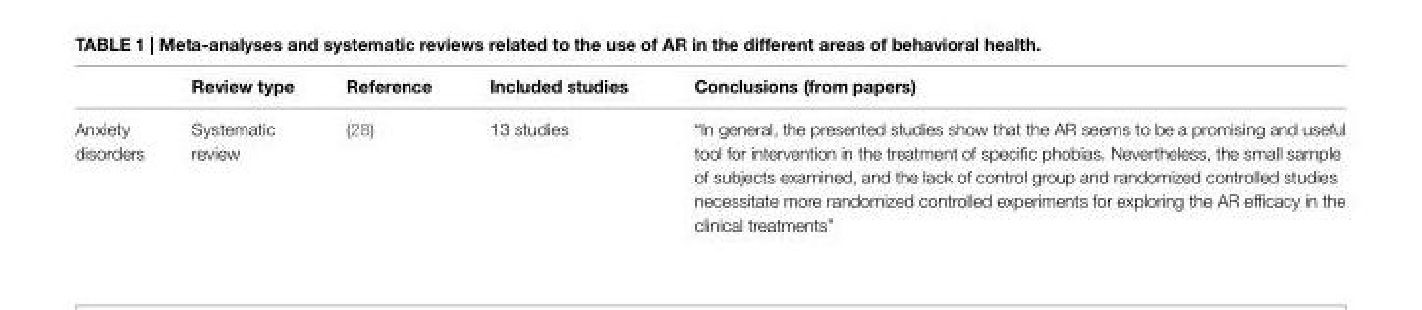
<table><thead><tr><td></td><td>Review type</td><td>Reference</td><td>included studies</td><td>Conclusions (from papers)</td></tr></thead><tbody><tr><td>Anxiety disorders</td><td>Systematic review</td><td>(28)</td><td>13 studies</td><td>“In general, the presented studies show that the AR seems to be a promising and useful tool for intervention in the treatment of specific phobias. Nevertheless, the small sample of subjects examined, and the lack of control group and randomized controlled studies necessitate more randomized controlled experiments for exploring the AR efficacy in the clinical treatments”</td></tr></tbody></table>